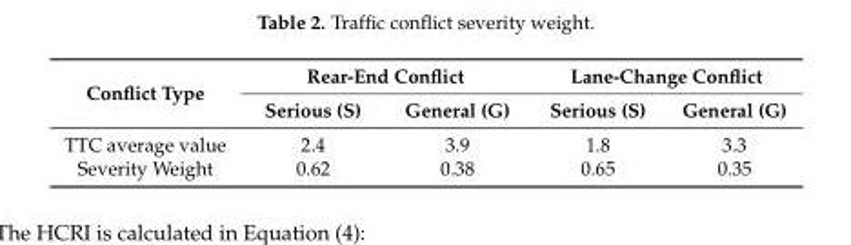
<table><thead><tr><td rowspan="2">Conflict Type</td><td colspan="2">Rear-End Conflict</td><td colspan="2">Lane-Change Conflict</td></tr><tr><td>Serious (S)</td><td>General (G)</td><td>Serious (S)</td><td>General (G)</td></tr></thead><tbody><tr><td>TTC average value</td><td>2.4</td><td>3.9</td><td>1.8</td><td>3.3</td></tr><tr><td>Severity Weight</td><td>0.62</td><td>0.38</td><td>0.65</td><td>0.35</td></tr></tbody></table>